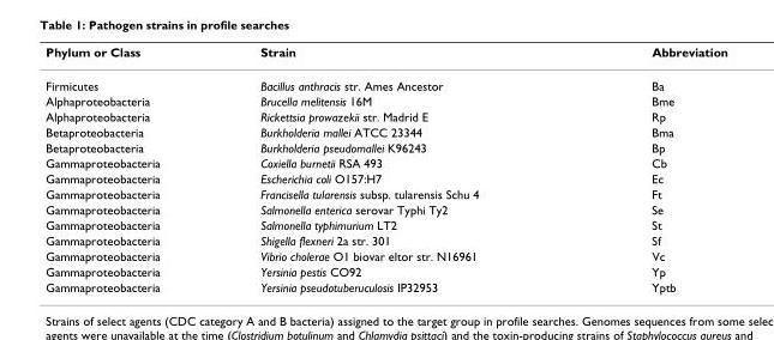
<table><thead><tr><td>Phylum or Class</td><td>Strain</td><td>Abbreviation</td></tr></thead><tbody><tr><td>Firmicutes</td><td>Bacillus anthracis str. Ames Ancestor</td><td>Ba</td></tr><tr><td>Alphaproteobacteria</td><td>Brucella melitensis 16M</td><td>Bme</td></tr><tr><td>Alphaproteobacteria</td><td>Rickettsia prowazekii str. Madrid E</td><td>Rp</td></tr><tr><td>Betaproteobacteria</td><td>Burkholderia mallei ATCC 23344</td><td>Bma</td></tr><tr><td>Betaproteobacteria</td><td>Burkholderia pseudomallei K96243</td><td>Bp</td></tr><tr><td>Gammaproteobacteria</td><td>Coxiella burnetii RSA 493</td><td>Cb</td></tr><tr><td>Gammaproteobacteria</td><td>Escherichia coli O157:H7</td><td>Ec</td></tr><tr><td>Gammaproteobacteria</td><td>Francisella tularensis subsp. tularensis Schu 4</td><td>Ft</td></tr><tr><td>Gammaproteobacteria</td><td>Salmonella enterica serovar Typhi Ty2</td><td>Se</td></tr><tr><td>Gammaproteobacteria</td><td>Salmonella typhimurium LT2</td><td>St</td></tr><tr><td>Gammaproteobacteria</td><td>Shigella flexneri 2a str. 301</td><td>Sf</td></tr><tr><td>Gammaproteobacteria</td><td>Vibrio cholerae O1 biovar eltor str. N16961</td><td>Vc</td></tr><tr><td>Gammaproteobacteria</td><td>Yersinia pestis CO92</td><td>Yp</td></tr><tr><td>Gammaproteobacteria</td><td>Yersinia pseudotuberuculosis IP32953</td><td>Yptb</td></tr></tbody></table>